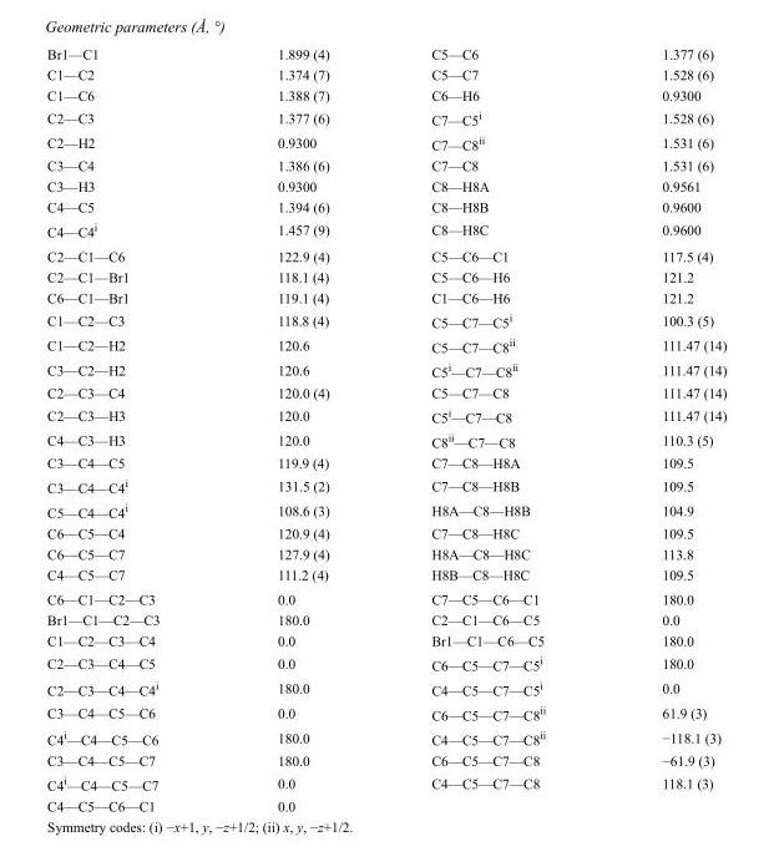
<table><tbody><tr><td>Br1—C1</td><td>1.899 (4)</td><td>C5—C6</td><td>1.377 (6)</td></tr><tr><td>C1—C2</td><td>1.374 (7)</td><td>C5—C7</td><td>1.528 (6)</td></tr><tr><td>C1—C6</td><td>1.388 (7)</td><td>C6—H6</td><td>0.9300</td></tr><tr><td>C2—C3</td><td>1.377 (6)</td><td>C7—C5<sup>i</sup></td><td>1.528 (6)</td></tr><tr><td>C2—H2</td><td>0.9300</td><td>C7—C8<sup>ii</sup></td><td>1.531 (6)</td></tr><tr><td>C3—C4</td><td>1.386 (6)</td><td>C7—C8</td><td>1.531 (6)</td></tr><tr><td>C3—H3</td><td>0.9300</td><td>C8—H8A</td><td>0.9561</td></tr><tr><td>C4—C5</td><td>1.394 (6)</td><td>C8—H8B</td><td>0.9600</td></tr><tr><td>C4—C4<sup>i</sup></td><td>1.457 (9)</td><td>C8—H8C</td><td>0.9600</td></tr><tr><td>C2—C1—C6</td><td>122.9 (4)</td><td>C5—C6—C1</td><td>117.5 (4)</td></tr><tr><td>C2—C1—Br1</td><td>118.1 (4)</td><td>C5—C6—H6</td><td>121.2</td></tr><tr><td>C6—C1—Br1</td><td>119.1 (4)</td><td>C1—C6—H6</td><td>121.2</td></tr><tr><td>C1—C2—C3</td><td>118.8 (4)</td><td>C5—C7—C5<sup>i</sup></td><td>100.3 (5)</td></tr><tr><td>C1—C2—H2</td><td>120.6</td><td>C5—C7—C8<sup>ii</sup></td><td>111.47 (14)</td></tr><tr><td>C3—C2—H2</td><td>120.6</td><td>C5<sup>i</sup>—C7—C8<sup>ii</sup></td><td>111.47 (14)</td></tr><tr><td>C2—C3—C4</td><td>120.0 (4)</td><td>C5—C7—C8</td><td>111.47 (14)</td></tr><tr><td>C2—C3—H3</td><td>120.0</td><td>C5<sup>i</sup>—C7—C8</td><td>111.47 (14)</td></tr><tr><td>C4—C3—H3</td><td>120.0</td><td>C8<sup>ii</sup>—C7—C8</td><td>110.3 (5)</td></tr><tr><td>C3—C4—C5</td><td>119.9 (4)</td><td>C7—C8—H8A</td><td>109.5</td></tr><tr><td>C3—C4—C4<sup>i</sup></td><td>131.5 (2)</td><td>C7—C8—H8B</td><td>109.5</td></tr><tr><td>C5—C4—C4<sup>i</sup></td><td>108.6 (3)</td><td>H8A—C8—H8B</td><td>104.9</td></tr><tr><td>C6—C5—C4</td><td>120.9 (4)</td><td>C7—C8—H8C</td><td>109.5</td></tr><tr><td>C6—C5—C7</td><td>127.9 (4)</td><td>H8A—C8—H8C</td><td>113.8</td></tr><tr><td>C4—C5—C7</td><td>111.2 (4)</td><td>H8B—C8—H8C</td><td>109.5</td></tr><tr><td>C6—C1—C2—C3</td><td>0.0</td><td>C7—C5—C6—C1</td><td>180.0</td></tr><tr><td>Br1—C1—C2—C3</td><td>180.0</td><td>C2—C1—C6—C5</td><td>0.0</td></tr><tr><td>C1—C2—C3—C4</td><td>0.0</td><td>Br1—C1—C6—C5</td><td>180.0</td></tr><tr><td>C2—C3—C4—C5</td><td>0.0</td><td>C6—C5—C7—C5<sup>i</sup></td><td>180.0</td></tr><tr><td>C2—C3—C4—C4<sup>i</sup></td><td>180.0</td><td>C4—C5—C7—C5<sup>i</sup></td><td>0.0</td></tr><tr><td>C3—C4—C5—C6</td><td>0.0</td><td>C6—C5—C7—C8<sup>ii</sup></td><td>61.9 (3)</td></tr><tr><td>C4<sup>i</sup>—C4—C5—C6</td><td>180.0</td><td>C4—C5—C7—C8<sup>ii</sup></td><td>−118.1 (3)</td></tr><tr><td>C3—C4—C5—C7</td><td>180.0</td><td>C6—C5—C7—C8</td><td>−61.9 (3)</td></tr><tr><td>C4<sup>i</sup>—C4—C5—C7</td><td>0.0</td><td>C4—C5—C7—C8</td><td>118.1 (3)</td></tr><tr><td>C4—C5—C6—C1</td><td>0.0</td><td></td><td></td></tr></tbody></table>